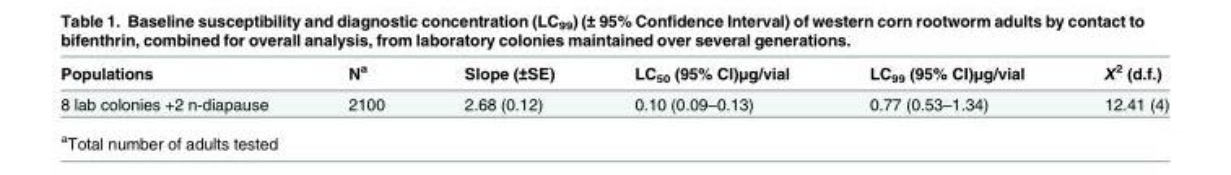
<table><thead><tr><td>Populations</td><td>N<sup>a</sup></td><td>Slope (±SE)</td><td>LC<sub>50</sub> (95% CI)μg/vial</td><td>LC<sub>99</sub> (95% CI)μg/vial</td><td>X<sup>2</sup> (d.f.)</td></tr></thead><tbody><tr><td>8 lab colonies +2 n-diapause</td><td>2100</td><td>2.68 (0.12)</td><td>0.10 (0.09–0.13)</td><td>0.77 (0.53–1.34)</td><td>12.41 (4)</td></tr></tbody></table>